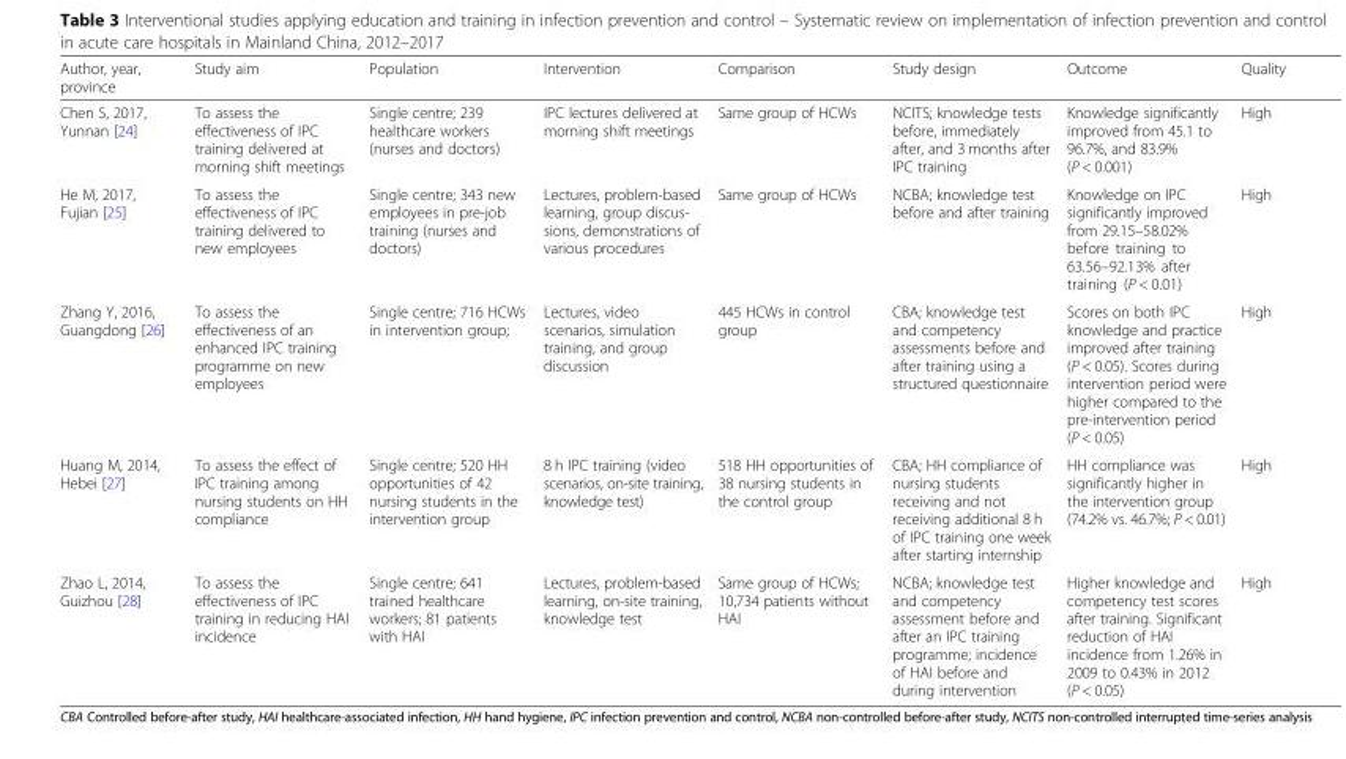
<table><thead><tr><td>Author, year, province</td><td>Study aim</td><td>Population</td><td>Intervention</td><td>Comparison</td><td>Study design</td><td>Outcome</td><td>Quality</td></tr></thead><tbody><tr><td>Chen S, 2017, Yunnan [24]</td><td>To assess the effectiveness of IPC training delivered at morning shift meetings</td><td>Single centre; 239 healthcare workers (nurses and doctors)</td><td>IPC lectures delivered at morning shift meetings</td><td>Same group of HCWs</td><td>NCITS; knowledge tests before, immediately after, and 3 months after IPC training</td><td>Knowledge significantly improved from 45.1 to 96.7%, and 83.9% (P &lt; 0.001)</td><td>High</td></tr><tr><td>He M, 2017, Fujian [25]</td><td>To assess the effectiveness of IPC training delivered to new employees</td><td>Single centre; 343 new employees in pre-job training (nurses and doctors)</td><td>Lectures, problem-based learning, group discus- sions, demonstrations of various procedures</td><td>Same group of HCWs</td><td>NCBA; knowledge test before and after training</td><td>Knowledge on IPC significantly improved from 29.15–58.02% before training to 63.56–92.13% after training (P &lt; 0.01)</td><td>High</td></tr><tr><td>Zhang Y, 2016, Guangdong [26]</td><td>To assess the effectiveness of an enhanced IPC training programme on new employees</td><td>Single centre; 716 HCWs in intervention group;</td><td>Lectures, video scenarios, simulation training, and group discussion</td><td>445 HCWs in control group</td><td>CBA; knowledge test and competency assessments before and after training using a structured questionnaire</td><td>Scores on both IPC knowledge and practice improved after training (P &lt; 0.05). Scores during intervention period were higher compared to the pre-intervention period (P &lt; 0.05)</td><td>High</td></tr><tr><td>Huang M, 2014, Hebei [27]</td><td>To assess the effect of IPC training among nursing students on HH compliance</td><td>Single centre; 520 HH opportunities of 42 nursing students in the intervention group</td><td>8 h IPC training (video scenarios, on-site training, knowledge test)</td><td>518 HH opportunities of 38 nursing students in the control group</td><td>CBA; HH compliance of nursing students receiving and not receiving additional 8 h of IPC training one week after starting internship</td><td>HH compliance was significantly higher in the intervention group (74.2% vs. 46.7%; P &lt; 0.01)</td><td>High</td></tr><tr><td>Zhao L, 2014, Guizhou [28]</td><td>To assess the effectiveness of IPC training in reducing HAI incidence</td><td>Single centre; 641 trained healthcare workers; 81 patients with HAI</td><td>Lectures, problem-based learning, on-site training, knowledge test</td><td>Same group of HCWs; 10,734 patients without HAI</td><td>NCBA; knowledge test and competency assessment before and after an IPC training programme; incidence of HAI before and during intervention</td><td>Higher knowledge and competency test scores after training. Significant reduction of HAI incidence from 1.26% in 2009 to 0.43% in 2012 (P &lt; 0.05)</td><td>High</td></tr></tbody></table>